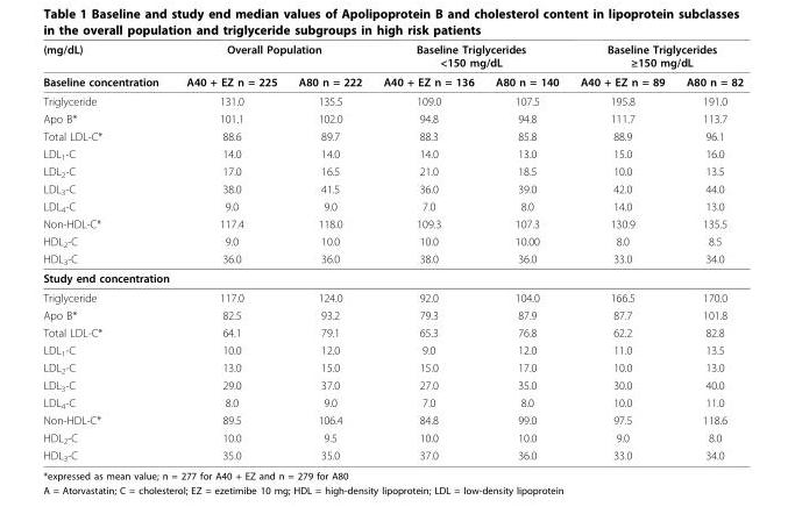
<table><thead><tr><td rowspan="2">(mg/dL) Baseline concentration</td><td colspan="2">Overall Population</td><td colspan="2">Baseline Triglycerides &lt;150 mg/dL</td><td colspan="2">Baseline Triglycerides ≥150 mg/dL</td></tr><tr><td>A40 + EZ n = 225</td><td>A80 n = 222</td><td>A40 + EZ n = 136</td><td>A80 n = 140</td><td>A40 + EZ n = 89</td><td>A80 n = 82</td></tr></thead><tbody><tr><td>Triglyceride</td><td>131.0</td><td>135.5</td><td>109.0</td><td>107.5</td><td>195.8</td><td>191.0</td></tr><tr><td>Apo B*</td><td>101.1</td><td>102.0</td><td>94.8</td><td>94.8</td><td>111.7</td><td>113.7</td></tr><tr><td>Total LDL-C*</td><td>88.6</td><td>89.7</td><td>88.3</td><td>85.8</td><td>88.9</td><td>96.1</td></tr><tr><td>LDL<sub>1</sub>-C</td><td>14.0</td><td>14.0</td><td>14.0</td><td>13.0</td><td>15.0</td><td>16.0</td></tr><tr><td>LDL<sub>2</sub>-C</td><td>17.0</td><td>16.5</td><td>21.0</td><td>18.5</td><td>10.0</td><td>13.5</td></tr><tr><td>LDL<sub>3</sub>-C</td><td>38.0</td><td>41.5</td><td>36.0</td><td>39.0</td><td>42.0</td><td>44.0</td></tr><tr><td>LDL<sub>4</sub>-C</td><td>9.0</td><td>9.0</td><td>7.0</td><td>8.0</td><td>14.0</td><td>13.0</td></tr><tr><td>Non-HDL-C*</td><td>117.4</td><td>118.0</td><td>109.3</td><td>107.3</td><td>130.9</td><td>135.5</td></tr><tr><td>HDL<sub>2</sub>-C</td><td>9.0</td><td>10.0</td><td>10.0</td><td>10.00</td><td>8.0</td><td>8.5</td></tr><tr><td>HDL<sub>3</sub>-C</td><td>36.0</td><td>36.0</td><td>38.0</td><td>36.0</td><td>33.0</td><td>34.0</td></tr><tr><td colspan="7">Study end concentration</td></tr><tr><td>Triglyceride</td><td>117.0</td><td>124.0</td><td>92.0</td><td>104.0</td><td>166.5</td><td>170.0</td></tr><tr><td>Apo B*</td><td>82.5</td><td>93.2</td><td>79.3</td><td>87.9</td><td>87.7</td><td>101.8</td></tr><tr><td>Total LDL-C*</td><td>64.1</td><td>79.1</td><td>65.3</td><td>76.8</td><td>62.2</td><td>82.8</td></tr><tr><td>LDL<sub>1</sub>-C</td><td>10.0</td><td>12.0</td><td>9.0</td><td>12.0</td><td>11.0</td><td>13.5</td></tr><tr><td>LDL<sub>2</sub>-C</td><td>13.0</td><td>15.0</td><td>15.0</td><td>17.0</td><td>10.0</td><td>13.0</td></tr><tr><td>LDL<sub>3</sub>-C</td><td>29.0</td><td>37.0</td><td>27.0</td><td>35.0</td><td>30.0</td><td>40.0</td></tr><tr><td>LDL<sub>4</sub>-C</td><td>8.0</td><td>9.0</td><td>7.0</td><td>8.0</td><td>10.0</td><td>11.0</td></tr><tr><td>Non-HDL-C*</td><td>89.5</td><td>106.4</td><td>84.8</td><td>99.0</td><td>97.5</td><td>118.6</td></tr><tr><td>HDL<sub>2</sub>-C</td><td>10.0</td><td>9.5</td><td>10.0</td><td>10.0</td><td>9.0</td><td>8.0</td></tr><tr><td>HDL<sub>3</sub>-C</td><td>35.0</td><td>35.0</td><td>37.0</td><td>36.0</td><td>33.0</td><td>34.0</td></tr></tbody></table>